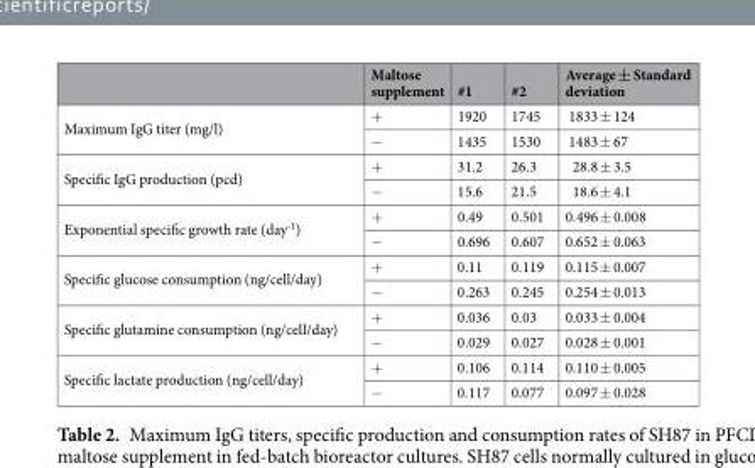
<table><thead><tr><td></td><td>Maltose supplement</td><td>#1</td><td>#2</td><td>Average ± Standard deviation</td></tr></thead><tbody><tr><td rowspan="2">Maximum IgG titer (mg/l)</td><td>+</td><td>1920</td><td>1745</td><td>1833 ± 124</td></tr><tr><td>−</td><td>1435</td><td>1530</td><td>1483 ± 67</td></tr><tr><td rowspan="2">Specific IgG production (pcd)</td><td>+</td><td>31.2</td><td>26.3</td><td>28.8 ± 3.5</td></tr><tr><td>−</td><td>15.6</td><td>21.5</td><td>18.6 ± 4.1</td></tr><tr><td rowspan="2">Exponential specific growth rate (day<sup>-1</sup>)</td><td>+</td><td>0.49</td><td>0.501</td><td>0.496 ± 0.008</td></tr><tr><td>−</td><td>0.696</td><td>0.607</td><td>0.652 ± 0.063</td></tr><tr><td rowspan="2">Specific glucose consumption (ng/cell/day)</td><td>+</td><td>0.11</td><td>0.119</td><td>0.115 ± 0.007</td></tr><tr><td>−</td><td>0.263</td><td>0.245</td><td>0.254 ± 0.013</td></tr><tr><td rowspan="2">Specific glutamine consumption (ng/cell/day)</td><td>+</td><td>0.036</td><td>0.03</td><td>0.033 ± 0.004</td></tr><tr><td>−</td><td>0.029</td><td>0.027</td><td>0.028 ± 0.001</td></tr><tr><td rowspan="2">Specific lactate production (ng/cell/day)</td><td>+</td><td>0.106</td><td>0.114</td><td>0.110 ± 0.005</td></tr><tr><td>−</td><td>0.117</td><td>0.077</td><td>0.097 ± 0.028</td></tr></tbody></table>